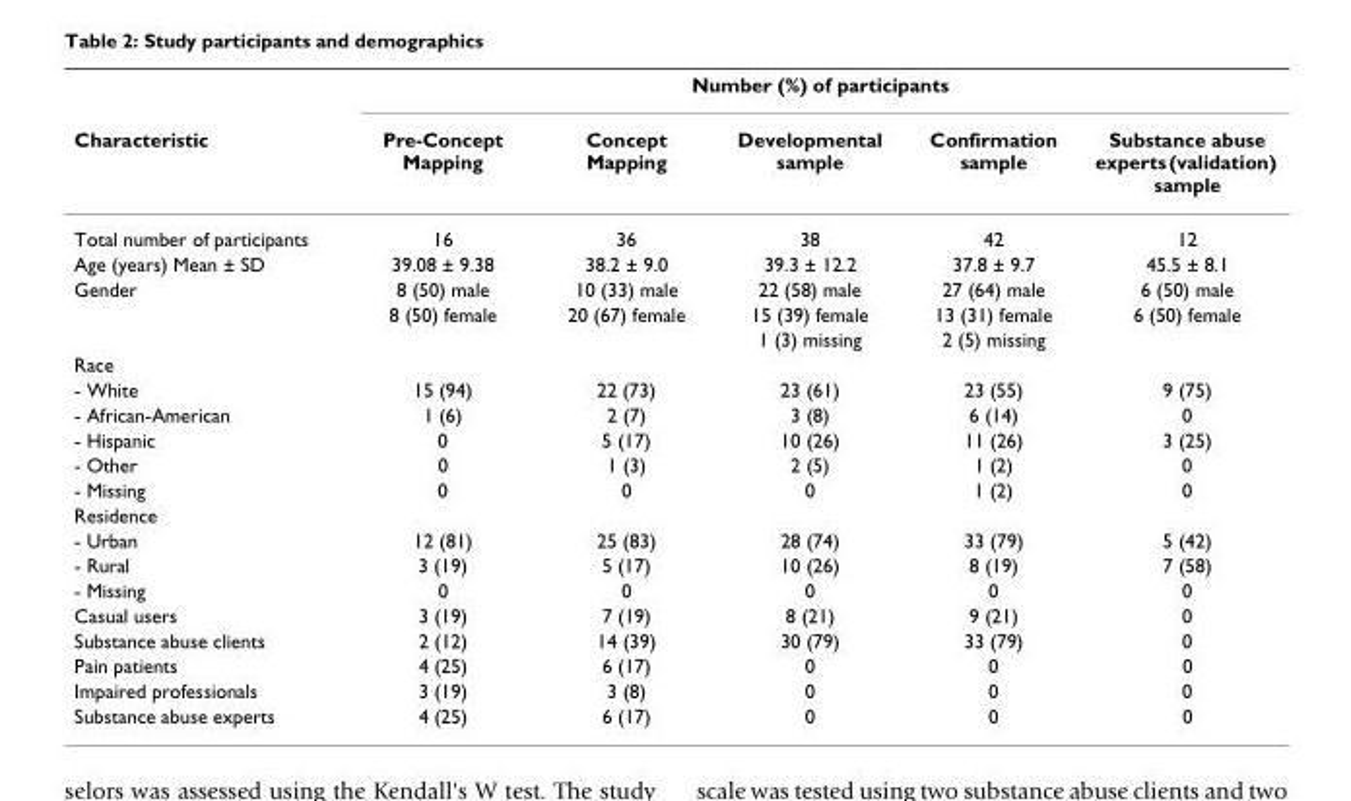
<table><thead><tr><td rowspan="2">Characteristic</td><td colspan="5">Number (%) of participants</td></tr><tr><td>Pre-Concept Mapping</td><td>Concept Mapping</td><td>Developmental sample</td><td>Confirmation sample</td><td>Substance abuse experts (validation) sample</td></tr></thead><tbody><tr><td>Total number of participants</td><td>16</td><td>36</td><td>38</td><td>42</td><td>12</td></tr><tr><td>Age (years) Mean ± SD</td><td>39.08 ± 9.38</td><td>38.2 ± 9.0</td><td>39.3 ± 12.2</td><td>37.8 ± 9.7</td><td>45.5 ± 8.1</td></tr><tr><td rowspan="3">Gender</td><td>8 (50) male</td><td>10 (33) male</td><td>22 (58) male</td><td>27 (64) male</td><td>6 (50) male</td></tr><tr><td>8 (50) female</td><td>20 (67) female</td><td>15 (39) female</td><td>13 (31) female</td><td>6 (50) female</td></tr><tr><td></td><td></td><td>1 (3) missing</td><td>2 (5) missing</td><td></td></tr><tr><td colspan="6">Race</td></tr><tr><td>- White</td><td>15 (94)</td><td>22 (73)</td><td>23 (61)</td><td>23 (55)</td><td>9 (75)</td></tr><tr><td>- African-American</td><td>1 (6)</td><td>2 (7)</td><td>3 (8)</td><td>6 (14)</td><td>0</td></tr><tr><td>- Hispanic</td><td>0</td><td>5 (17)</td><td>10 (26)</td><td>11 (26)</td><td>3 (25)</td></tr><tr><td>- Other</td><td>0</td><td>1 (3)</td><td>2 (5)</td><td>1 (2)</td><td>0</td></tr><tr><td>- Missing</td><td>0</td><td>0</td><td>0</td><td>1 (2)</td><td>0</td></tr><tr><td colspan="6">Residence</td></tr><tr><td>- Urban</td><td>12 (81)</td><td>25 (83)</td><td>28 (74)</td><td>33 (79)</td><td>5 (42)</td></tr><tr><td>- Rural</td><td>3 (19)</td><td>5 (17)</td><td>10 (26)</td><td>8 (19)</td><td>7 (58)</td></tr><tr><td>- Missing</td><td>0</td><td>0</td><td>0</td><td>0</td><td>0</td></tr><tr><td>Casual users</td><td>3 (19)</td><td>7 (19)</td><td>8 (21)</td><td>9 (21)</td><td>0</td></tr><tr><td>Substance abuse clients</td><td>2 (12)</td><td>14 (39)</td><td>30 (79)</td><td>33 (79)</td><td>0</td></tr><tr><td>Pain patients</td><td>4 (25)</td><td>6 (17)</td><td>0</td><td>0</td><td>0</td></tr><tr><td>Impaired professionals</td><td>3 (19)</td><td>3 (8)</td><td>0</td><td>0</td><td>0</td></tr><tr><td>Substance abuse experts</td><td>4 (25)</td><td>6 (17)</td><td>0</td><td>0</td><td>0</td></tr></tbody></table>